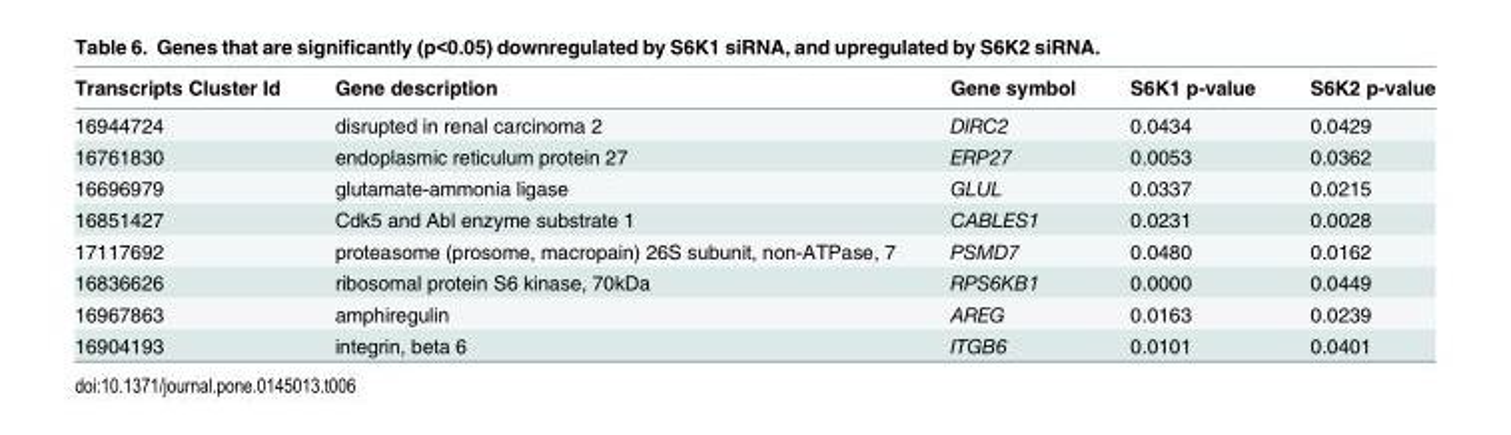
<table><thead><tr><td>Transcripts Cluster Id</td><td>Gene description</td><td>Gene symbol</td><td>S6K1 p-value</td><td>S6K2 p-value</td></tr></thead><tbody><tr><td>16944724</td><td>disrupted in renal carcinoma 2</td><td>DIRC2</td><td>0.0434</td><td>0.0429</td></tr><tr><td>16761830</td><td>endoplasmic reticulum protein 27</td><td>ERP27</td><td>0.0053</td><td>0.0362</td></tr><tr><td>16696979</td><td>glutamate-ammonia ligase</td><td>GLUL</td><td>0.0337</td><td>0.0215</td></tr><tr><td>16851427</td><td>Cdk5 and Abl enzyme substrate 1</td><td>CABLES1</td><td>0.0231</td><td>0.0028</td></tr><tr><td>17117692</td><td>proteasome (prosome, macropain) 26S subunit, non-ATPase, 7</td><td>PSMD7</td><td>0.0480</td><td>0.0162</td></tr><tr><td>16836626</td><td>ribosomal protein S6 kinase, 70kDa</td><td>RPS6KB1</td><td>0.0000</td><td>0.0449</td></tr><tr><td>16967863</td><td>amphiregulin</td><td>AREG</td><td>0.0163</td><td>0.0239</td></tr><tr><td>16904193</td><td>integrin, beta 6</td><td>ITGB6</td><td>0.0101</td><td>0.0401</td></tr></tbody></table>